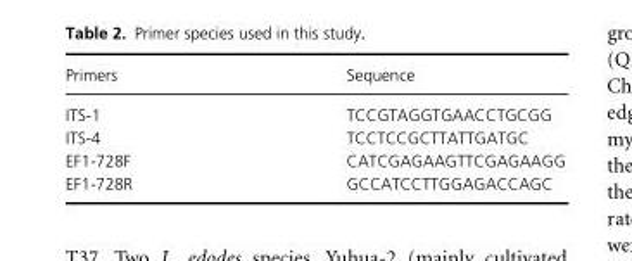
<table><thead><tr><td>Primers</td><td>Sequence</td></tr></thead><tbody><tr><td>ITS- 1</td><td>TCCGTAGGTGAACCTGCGG</td></tr><tr><td>ITS- 4</td><td>TCCTCCGCTTATTGATGC</td></tr><tr><td>EF1- 728F</td><td>CATCGAGAAGTTCGAGAAGG</td></tr><tr><td>EF1- 728R</td><td>GCCATCCTTGGAGACCAGC</td></tr></tbody></table>